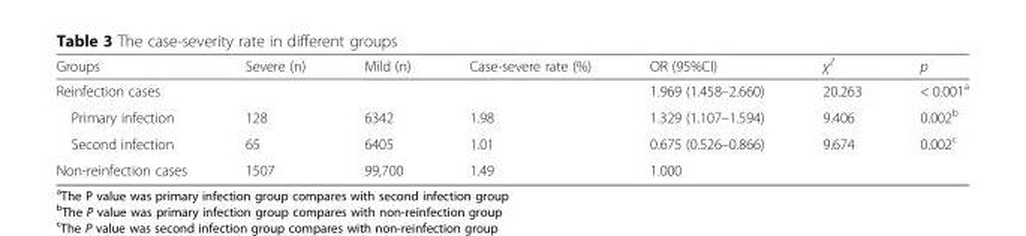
<table><thead><tr><td>Groups</td><td>Severe (n)</td><td>Mild (n)</td><td>Case-severe rate (%)</td><td>OR (95%CI)</td><td>χ<sup>2</sup></td><td>p</td></tr></thead><tbody><tr><td>Reinfection cases</td><td></td><td></td><td></td><td>1.969 (1.458–2.660)</td><td>20.263</td><td>&lt; 0.001<sup>a</sup></td></tr><tr><td>Primary infection</td><td>128</td><td>6342</td><td>1.98</td><td>1.329 (1.107–1.594)</td><td>9.406</td><td>0.002<sup>b</sup></td></tr><tr><td>Second infection</td><td>65</td><td>6405</td><td>1.01</td><td>0.675 (0.526–0.866)</td><td>9.674</td><td>0.002<sup>c</sup></td></tr><tr><td>Non-reinfection cases</td><td>1507</td><td>99,700</td><td>1.49</td><td>1.000</td><td></td><td></td></tr></tbody></table>